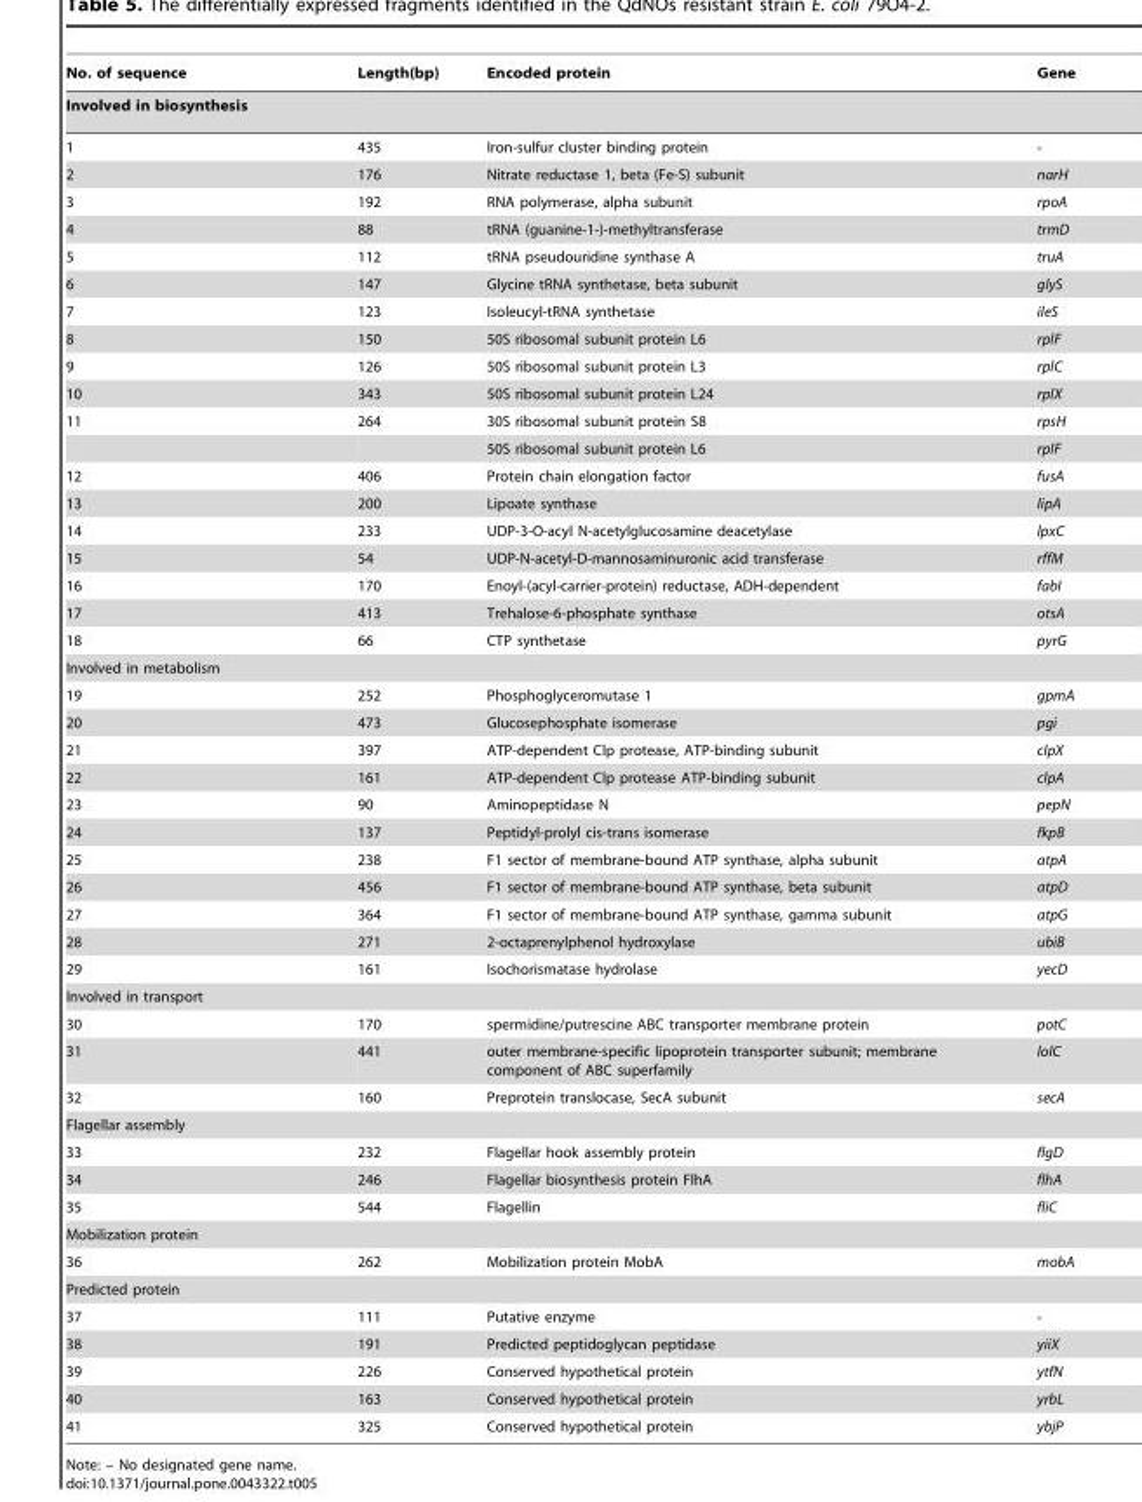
<table><thead><tr><td>No. of sequence</td><td>Length(bp)</td><td>Encoded protein</td><td>Gene</td></tr></thead><tbody><tr><td colspan="4">Involved in biosynthesis</td></tr><tr><td>1</td><td>435</td><td>Iron-sulfur cluster binding protein</td><td>-</td></tr><tr><td>2</td><td>176</td><td>Nitrate reductase 1, beta (Fe-S) subunit</td><td>narH</td></tr><tr><td>3</td><td>192</td><td>RNA polymerase, alpha subunit</td><td>rpoA</td></tr><tr><td>4</td><td>88</td><td>tRNA (guanine-1-)-methyltransferase</td><td>trmD</td></tr><tr><td>5</td><td>112</td><td>tRNA pseudouridine synthase A</td><td>truA</td></tr><tr><td>6</td><td>147</td><td>Glycine tRNA synthetase, beta subunit</td><td>glyS</td></tr><tr><td>7</td><td>123</td><td>Isoleucyl-tRNA synthetase</td><td>ileS</td></tr><tr><td>8</td><td>150</td><td>50S ribosomal subunit protein L6</td><td>rplF</td></tr><tr><td>9</td><td>126</td><td>50S ribosomal subunit protein L3</td><td>rplC</td></tr><tr><td>10</td><td>343</td><td>50S ribosomal subunit protein L24</td><td>rplX</td></tr><tr><td rowspan="2">11</td><td>264</td><td>30S ribosomal subunit protein S8</td><td>rpsH</td></tr><tr><td></td><td>50S ribosomal subunit protein L6</td><td>rplF</td></tr><tr><td>12</td><td>406</td><td>Protein chain elongation factor</td><td>fusA</td></tr><tr><td>13</td><td>200</td><td>Lipoate synthase</td><td>lipA</td></tr><tr><td>14</td><td>233</td><td>UDP-3-O-acyl N-acetylglucosamine deacetylase</td><td>lpxC</td></tr><tr><td>15</td><td>54</td><td>UDP-N-acetyl-D-mannosaminuronic acid transferase</td><td>rffM</td></tr><tr><td>16</td><td>170</td><td>Enoyl-(acyl-carrier-protein) reductase, ADH-dependent</td><td>fabI</td></tr><tr><td>17</td><td>413</td><td>Trehalose-6-phosphate synthase</td><td>otsA</td></tr><tr><td>18</td><td>66</td><td>CTP synthetase</td><td>pyrG</td></tr><tr><td colspan="4">Involved in metabolism</td></tr><tr><td>19</td><td>252</td><td>Phosphoglyceromutase 1</td><td>gpmA</td></tr><tr><td>20</td><td>473</td><td>Glucosephosphate isomerase</td><td>pgi</td></tr><tr><td>21</td><td>397</td><td>ATP-dependent Clp protease, ATP-binding subunit</td><td>clpX</td></tr><tr><td>22</td><td>161</td><td>ATP-dependent Clp protease ATP-binding subunit</td><td>clpA</td></tr><tr><td>23</td><td>90</td><td>Aminopeptidase N</td><td>pepN</td></tr><tr><td>24</td><td>137</td><td>Peptidyl-prolyl cis-trans isomerase</td><td>fkpB</td></tr><tr><td>25</td><td>238</td><td>F1 sector of membrane-bound ATP synthase, alpha subunit</td><td>atpA</td></tr><tr><td>26</td><td>456</td><td>F1 sector of membrane-bound ATP synthase, beta subunit</td><td>atpD</td></tr><tr><td>27</td><td>364</td><td>F1 sector of membrane-bound ATP synthase, gamma subunit</td><td>atpG</td></tr><tr><td>28</td><td>271</td><td>2-octaprenylphenol hydroxylase</td><td>ubiB</td></tr><tr><td>29</td><td>161</td><td>Isochorismatase hydrolase</td><td>yecD</td></tr><tr><td colspan="4">Involved in transport</td></tr><tr><td>30</td><td>170</td><td>spermidine/putrescine ABC transporter membrane protein</td><td>potC</td></tr><tr><td>31</td><td>441</td><td>outer membrane-specific lipoprotein transporter subunit; membrane component of ABC superfamily</td><td>lolC</td></tr><tr><td>32</td><td>160</td><td>Preprotein translocase, SecA subunit</td><td>secA</td></tr><tr><td colspan="4">Flagellar assembly</td></tr><tr><td>33</td><td>232</td><td>Flagellar hook assembly protein</td><td>flgD</td></tr><tr><td>34</td><td>246</td><td>Flagellar biosynthesis protein FlhA</td><td>flhA</td></tr><tr><td>35</td><td>544</td><td>Flagellin</td><td>fliC</td></tr><tr><td colspan="4">Mobilization protein</td></tr><tr><td>36</td><td>262</td><td>Mobilization protein MobA</td><td>mobA</td></tr><tr><td colspan="4">Predicted protein</td></tr><tr><td>37</td><td>111</td><td>Putative enzyme</td><td>-</td></tr><tr><td>38</td><td>191</td><td>Predicted peptidoglycan peptidase</td><td>yiiX</td></tr><tr><td>39</td><td>226</td><td>Conserved hypothetical protein</td><td>ytfN</td></tr><tr><td>40</td><td>163</td><td>Conserved hypothetical protein</td><td>yrbL</td></tr><tr><td>41</td><td>325</td><td>Conserved hypothetical protein</td><td>ybjP</td></tr></tbody></table>